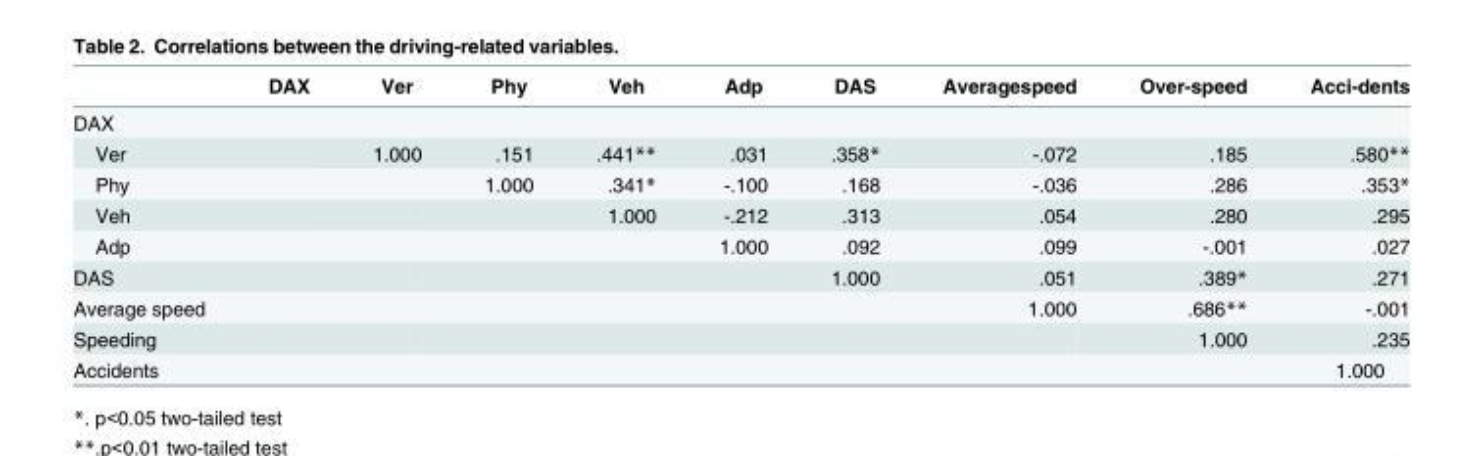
<table><thead><tr><td></td><td>DAX</td><td>Ver</td><td>Phy</td><td>Veh</td><td>Adp</td><td>DAS</td><td>Averagespeed</td><td>Over-speed</td><td>Acci-dents</td></tr></thead><tbody><tr><td colspan="10">DAX</td></tr><tr><td>Ver</td><td></td><td>1.000</td><td>.151</td><td>.441**</td><td>.031</td><td>.358*</td><td>-.072</td><td>.185</td><td>.580**</td></tr><tr><td>Phy</td><td></td><td></td><td>1.000</td><td>.341*</td><td>-.100</td><td>.168</td><td>-.036</td><td>.286</td><td>.353*</td></tr><tr><td>Veh</td><td></td><td></td><td></td><td>1.000</td><td>-.212</td><td>.313</td><td>.054</td><td>.280</td><td>.295</td></tr><tr><td>Adp</td><td></td><td></td><td></td><td></td><td>1.000</td><td>.092</td><td>.099</td><td>-.001</td><td>.027</td></tr><tr><td>DAS</td><td></td><td></td><td></td><td></td><td></td><td>1.000</td><td>.051</td><td>.389*</td><td>.271</td></tr><tr><td>Average speed</td><td></td><td></td><td></td><td></td><td></td><td></td><td>1.000</td><td>.686**</td><td>-.001</td></tr><tr><td>Speeding</td><td></td><td></td><td></td><td></td><td></td><td></td><td></td><td>1.000</td><td>.235</td></tr><tr><td>Accidents</td><td></td><td></td><td></td><td></td><td></td><td></td><td></td><td></td><td>1.000</td></tr></tbody></table>